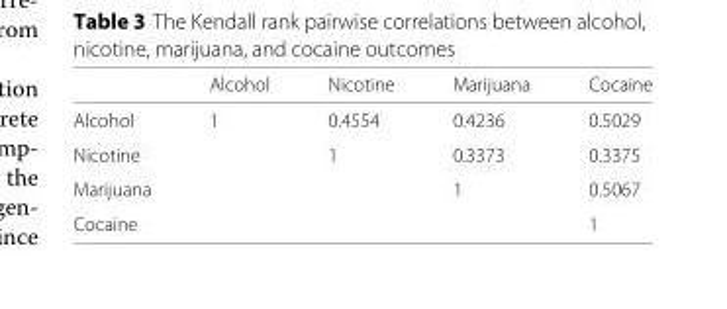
<table><thead><tr><td></td><td>Alcohol</td><td>Nicotine</td><td>Marijuana</td><td>Cocaine</td></tr></thead><tbody><tr><td>Alcohol</td><td>1</td><td>0.4554</td><td>0.4236</td><td>0.5029</td></tr><tr><td>Nicotine</td><td></td><td>1</td><td>0.3373</td><td>0.3375</td></tr><tr><td>Marijuana</td><td></td><td></td><td>1</td><td>0.5067</td></tr><tr><td>Cocaine</td><td></td><td></td><td></td><td>1</td></tr></tbody></table>